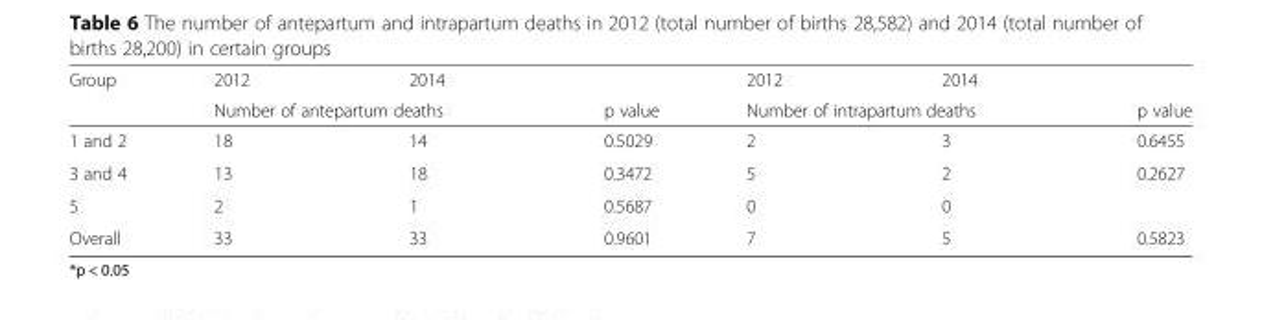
<table><thead><tr><td rowspan="2">Group</td><td>2012</td><td>2014</td><td rowspan="2">p value</td><td>2012</td><td>2014</td><td rowspan="2">p value</td></tr><tr><td colspan="2">Number of antepartum deaths</td><td colspan="2">Number of intrapartum deaths</td></tr></thead><tbody><tr><td>1 and 2</td><td>18</td><td>14</td><td>0.5029</td><td>2</td><td>3</td><td>0.6455</td></tr><tr><td>3 and 4</td><td>13</td><td>18</td><td>0.3472</td><td>5</td><td>2</td><td>0.2627</td></tr><tr><td>5</td><td>2</td><td>1</td><td>0.5687</td><td>0</td><td>0</td><td></td></tr><tr><td>Overall</td><td>33</td><td>33</td><td>0.9601</td><td>7</td><td>5</td><td>0.5823</td></tr></tbody></table>